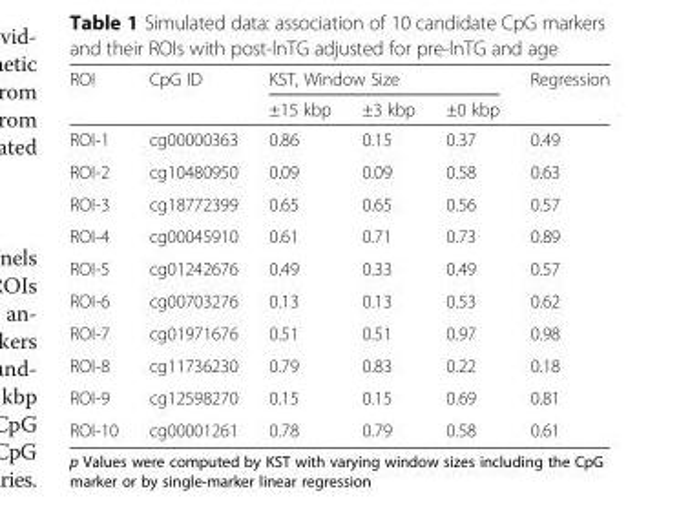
<table><thead><tr><td rowspan="2">ROI</td><td rowspan="2">CpG ID</td><td colspan="3">KST, Window Size</td><td rowspan="2">Regression</td></tr><tr><td>±15 kbp</td><td>±3 kbp</td><td>±0 kbp</td></tr></thead><tbody><tr><td>ROI-1</td><td>cg00000363</td><td>0.86</td><td>0.15</td><td>0.37</td><td>0.49</td></tr><tr><td>ROI-2</td><td>cg10480950</td><td>0.09</td><td>0.09</td><td>0.58</td><td>0.63</td></tr><tr><td>ROI-3</td><td>cg18772399</td><td>0.65</td><td>0.65</td><td>0.56</td><td>0.57</td></tr><tr><td>ROI-4</td><td>cg00045910</td><td>0.61</td><td>0.71</td><td>0.73</td><td>0.89</td></tr><tr><td>ROI-5</td><td>cg01242676</td><td>0.49</td><td>0.33</td><td>0.49</td><td>0.57</td></tr><tr><td>ROI-6</td><td>cg00703276</td><td>0.13</td><td>0.13</td><td>0.53</td><td>0.62</td></tr><tr><td>ROI-7</td><td>cg01971676</td><td>0.51</td><td>0.51</td><td>0.97</td><td>0.98</td></tr><tr><td>ROI-8</td><td>cg11736230</td><td>0.79</td><td>0.83</td><td>0.22</td><td>0.18</td></tr><tr><td>ROI-9</td><td>cg12598270</td><td>0.15</td><td>0.15</td><td>0.69</td><td>0.81</td></tr><tr><td>ROI-10</td><td>cg00001261</td><td>0.78</td><td>0.79</td><td>0.58</td><td>0.61</td></tr></tbody></table>